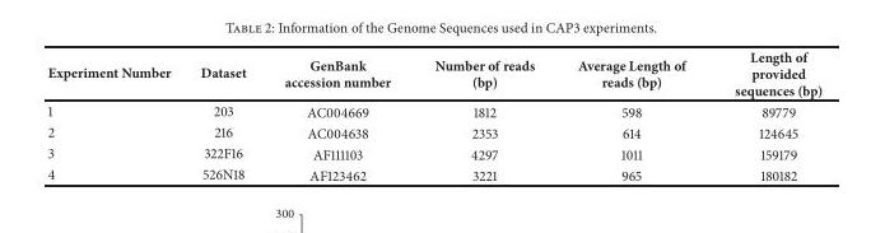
<table><thead><tr><td>Experiment Number</td><td>Dataset</td><td>GenBank accession number</td><td>Number of reads (bp)</td><td>Average Length of reads (bp)</td><td>Length of provided sequences (bp)</td></tr></thead><tbody><tr><td>1</td><td>203</td><td>AC004669</td><td>1812</td><td>598</td><td>89779</td></tr><tr><td>2</td><td>216</td><td>AC004638</td><td>2353</td><td>614</td><td>124645</td></tr><tr><td>3</td><td>322F16</td><td>AF111103</td><td>4297</td><td>1011</td><td>159179</td></tr><tr><td>4</td><td>526N18</td><td>AF123462</td><td>3221</td><td>965</td><td>180182</td></tr></tbody></table>